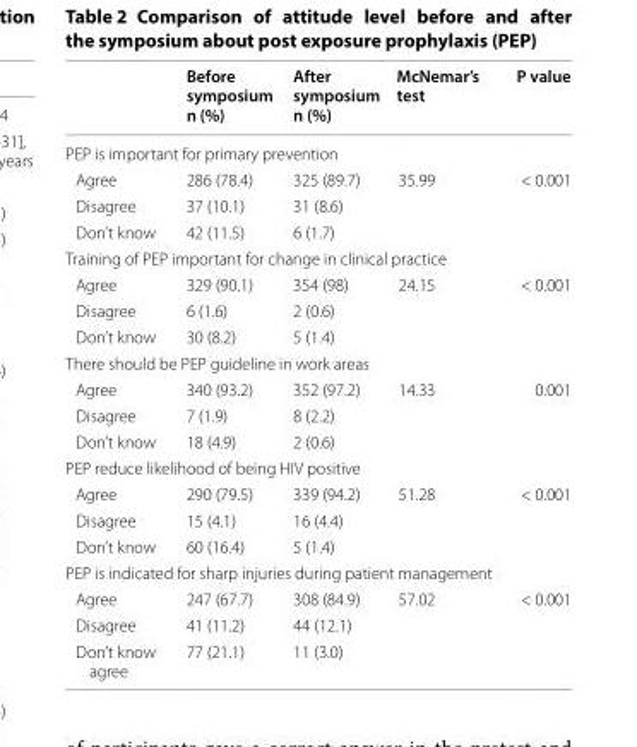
<table><thead><tr><td></td><td>Before symposium n (%)</td><td>After symposium n (%)</td><td>McNemar’s test</td><td>P value</td></tr></thead><tbody><tr><td colspan="5">PEP is important for primary prevention</td></tr><tr><td>Agree</td><td>286 (78.4)</td><td>325 (89.7)</td><td>35.99</td><td>&lt; 0.001</td></tr><tr><td>Disagree</td><td>37 (10.1)</td><td>31 (8.6)</td><td></td><td></td></tr><tr><td>Don’t know</td><td>42 (11.5)</td><td>6 (1.7)</td><td></td><td></td></tr><tr><td colspan="5">Training of PEP important for change in clinical practice</td></tr><tr><td>Agree</td><td>329 (90.1)</td><td>354 (98)</td><td>24.15</td><td>&lt; 0.001</td></tr><tr><td>Disagree</td><td>6 (1.6)</td><td>2 (0.6)</td><td></td><td></td></tr><tr><td>Don’t know</td><td>30 (8.2)</td><td>5 (1.4)</td><td></td><td></td></tr><tr><td colspan="5">There should be PEP guideline in work areas</td></tr><tr><td>Agree</td><td>340 (93.2)</td><td>352 (97.2)</td><td>14.33</td><td>0.001</td></tr><tr><td>Disagree</td><td>7 (1.9)</td><td>8 (2.2)</td><td></td><td></td></tr><tr><td>Don’t know</td><td>18 (4.9)</td><td>2 (0.6)</td><td></td><td></td></tr><tr><td colspan="5">PEP reduce likelihood of being HIV positive</td></tr><tr><td>Agree</td><td>290 (79.5)</td><td>339 (94.2)</td><td>51.28</td><td>&lt; 0.001</td></tr><tr><td>Disagree</td><td>15 (4.1)</td><td>16 (4.4)</td><td></td><td></td></tr><tr><td>Don’t know</td><td>60 (16.4)</td><td>5 (1.4)</td><td></td><td></td></tr><tr><td colspan="5">PEP is indicated for sharp injuries during patient management</td></tr><tr><td>Agree</td><td>247 (67.7)</td><td>308 (84.9)</td><td>57.02</td><td>&lt; 0.001</td></tr><tr><td>Disagree</td><td>41 (11.2)</td><td>44 (12.1)</td><td></td><td></td></tr><tr><td>Don’t know agree</td><td>77 (21.1)</td><td>11 (3.0)</td><td></td><td></td></tr></tbody></table>